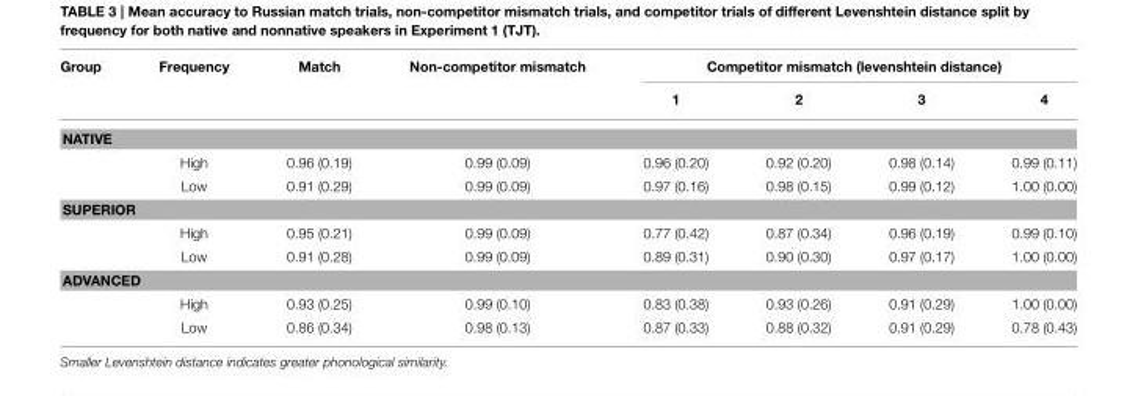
<table><thead><tr><td rowspan="2">Group</td><td rowspan="2">Frequency</td><td rowspan="2">Match</td><td rowspan="2">Non-competitor mismatch</td><td colspan="4">Competitor mismatch (levenshtein distance)</td></tr><tr><td>1</td><td>2</td><td>3</td><td>4</td></tr></thead><tbody><tr><td colspan="8">NATIVE</td></tr><tr><td></td><td>High</td><td>0.96 (0.19)</td><td>0.99 (0.09)</td><td>0.96 (0.20)</td><td>0.92 (0.20)</td><td>0.98 (0.14)</td><td>0.99 (0.11)</td></tr><tr><td></td><td>Low</td><td>0.91 (0.29)</td><td>0.99 (0.09)</td><td>0.97 (0.16)</td><td>0.98 (0.15)</td><td>0.99 (0.12)</td><td>1.00 (0.00)</td></tr><tr><td colspan="8">SUPERIOR</td></tr><tr><td></td><td>High</td><td>0.95 (0.21)</td><td>0.99 (0.09)</td><td>0.77 (0.42)</td><td>0.87 (0.34)</td><td>0.96 (0.19)</td><td>0.99 (0.10)</td></tr><tr><td></td><td>Low</td><td>0.91 (0.28)</td><td>0.99 (0.09)</td><td>0.89 (0.31)</td><td>0.90 (0.30)</td><td>0.97 (0.17)</td><td>1.00 (0.00)</td></tr><tr><td colspan="8">ADVANCED</td></tr><tr><td></td><td>High</td><td>0.93 (0.25)</td><td>0.99 (0.10)</td><td>0.83 (0.38)</td><td>0.93 (0.26)</td><td>0.91 (0.29)</td><td>1.00 (0.00)</td></tr><tr><td></td><td>Low</td><td>0.86 (0.34)</td><td>0.98 (0.13)</td><td>0.87 (0.33)</td><td>0.88 (0.32)</td><td>0.91 (0.29)</td><td>0.78 (0.43)</td></tr></tbody></table>